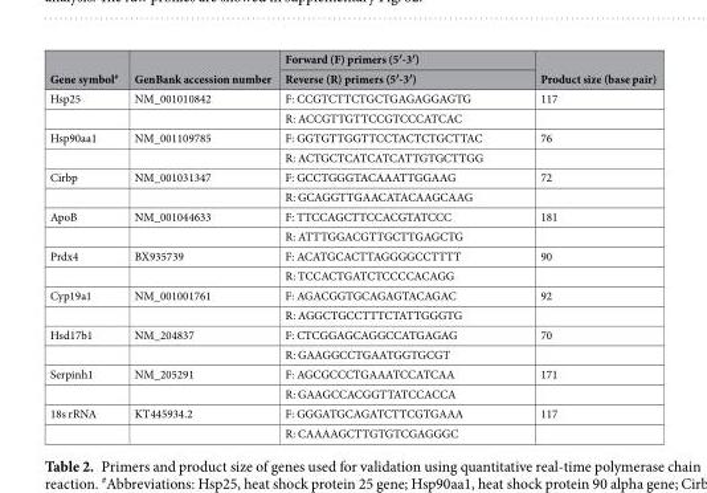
<table><thead><tr><td rowspan="2">Gene symbol<sup>#</sup></td><td rowspan="2">GenBank accession number</td><td rowspan="2">Forward (F) primers (5′-3′) Reverse (R) primers (5′-3′)</td><td rowspan="2">Product size (base pair)</td></tr><tr></tr></thead><tbody><tr><td rowspan="2">Hsp25</td><td>NM_001010842</td><td>F: CCGTCTTCTGCTGAGAGGAGTG</td><td>117</td></tr><tr><td></td><td>R: ACCGTTGTTCCGTCCCATCAC</td><td></td></tr><tr><td rowspan="2">Hsp90aa1</td><td>NM_001109785</td><td>F: GGTGTTGGTTCCTACTCTGCTTAC</td><td>76</td></tr><tr><td></td><td>R: ACTGCTCATCATCATTGTGCTTGG</td><td></td></tr><tr><td rowspan="2">Cirbp</td><td>NM_001031347</td><td>F: GCCTGGGTACAAATTGGAAG</td><td>72</td></tr><tr><td></td><td>R: GCAGGTTGAACATACAAGCAAG</td><td></td></tr><tr><td rowspan="2">ApoB</td><td>NM_001044633</td><td>F: TTCCAGCTTCCACGTATCCC</td><td>181</td></tr><tr><td></td><td>R: ATTTGGACGTTGCTTGAGCTG</td><td></td></tr><tr><td rowspan="2">Prdx4</td><td>BX935739</td><td>F: ACATGCACTTAGGGGCCTTTT</td><td>90</td></tr><tr><td></td><td>R: TCCACTGATCTCCCCACAGG</td><td></td></tr><tr><td rowspan="2">Cyp19a1</td><td>NM_001001761</td><td>F: AGACGGTGCAGAGTACAGAC</td><td>92</td></tr><tr><td></td><td>R: AGGCTGCCTTTCTATTGGGTG</td><td></td></tr><tr><td rowspan="2">Hsd17b1</td><td>NM_204837</td><td>F: CTCGGAGCAGGCCATGAGAG</td><td>70</td></tr><tr><td></td><td>R: GAAGGCCTGAATGGTGCGT</td><td></td></tr><tr><td rowspan="2">Serpinh1</td><td>NM_205291</td><td>F: AGCGCCCTGAAATCCATCAA</td><td>171</td></tr><tr><td></td><td>R: GAAGCCACGGTTATCCACCA</td><td></td></tr><tr><td rowspan="2">18s rRNA</td><td>KT445934.2</td><td>F: GGGATGCAGATCTTCGTGAAA</td><td>117</td></tr><tr><td></td><td>R: CAAAAGCTTGTGTCGAGGGC</td><td></td></tr></tbody></table>